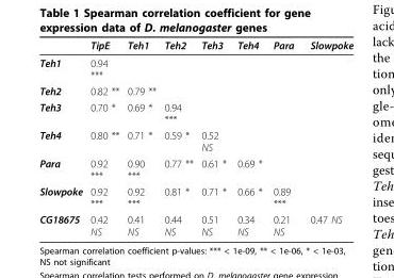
<table><thead><tr><td></td><td>TipE</td><td>Teh1</td><td>Teh2</td><td>Teh3</td><td>Teh4</td><td>Para</td><td>Slowpoke</td></tr></thead><tbody><tr><td>Teh1</td><td>0.94 ***</td><td></td><td></td><td></td><td></td><td></td><td></td></tr><tr><td>Teh2</td><td>0.82 **</td><td>0.79 **</td><td></td><td></td><td></td><td></td><td></td></tr><tr><td>Teh3</td><td>0.70 *</td><td>0.69 *</td><td>0.94 ***</td><td></td><td></td><td></td><td></td></tr><tr><td>Teh4</td><td>0.80 **</td><td>0.71 *</td><td>0.59 *</td><td>0.52 NS</td><td></td><td></td><td></td></tr><tr><td>Para</td><td>0.92 ***</td><td>0.90 ***</td><td>0.77 **</td><td>0.61 *</td><td>0.69 *</td><td></td><td></td></tr><tr><td>Slowpoke</td><td>0.92 ***</td><td>0.92 ***</td><td>0.81 *</td><td>0.71 *</td><td>0.66 *</td><td>0.89 ***</td><td></td></tr><tr><td>CG18675</td><td>0.42 NS</td><td>0.41 NS</td><td>0.44 NS</td><td>0.51 NS</td><td>0.34 NS</td><td>0.21 NS</td><td>0.47 NS</td></tr></tbody></table>